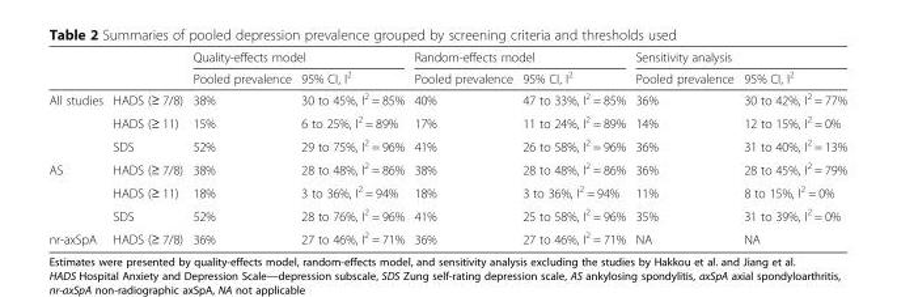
<table><thead><tr><td rowspan="2"></td><td rowspan="2"></td><td colspan="2">Quality-effects model</td><td colspan="2">Random-effects model</td><td colspan="2">Sensitivity analysis</td></tr><tr><td>Pooled prevalence</td><td>95% CI, I<sup>2</sup></td><td>Pooled prevalence</td><td>95% CI, I<sup>2</sup></td><td>Pooled prevalence</td><td>95% CI, I<sup>2</sup></td></tr></thead><tbody><tr><td rowspan="3">All studies</td><td>HADS (≥ 7/8)</td><td>38%</td><td>30 to 45%, I<sup>2</sup> = 85%</td><td>40%</td><td>47 to 33%, I<sup>2</sup> = 85%</td><td>36%</td><td>30 to 42%, I<sup>2</sup> = 77%</td></tr><tr><td>HADS (≥ 11)</td><td>15%</td><td>6 to 25%, I<sup>2</sup> = 89%</td><td>17%</td><td>11 to 24%, I<sup>2</sup> = 89%</td><td>14%</td><td>12 to 15%, I<sup>2</sup> = 0%</td></tr><tr><td>SDS</td><td>52%</td><td>29 to 75%, I<sup>2</sup> = 96%</td><td>41%</td><td>26 to 58%, I<sup>2</sup> = 96%</td><td>36%</td><td>31 to 40%, I<sup>2</sup> = 13%</td></tr><tr><td rowspan="3">AS</td><td>HADS (≥ 7/8)</td><td>38%</td><td>28 to 48%, I<sup>2</sup> = 86%</td><td>38%</td><td>28 to 48%, I<sup>2</sup> = 86%</td><td>36%</td><td>28 to 45%, I<sup>2</sup> = 79%</td></tr><tr><td>HADS (≥ 11)</td><td>18%</td><td>3 to 36%, I<sup>2</sup> = 94%</td><td>18%</td><td>3 to 36%, I<sup>2</sup> = 94%</td><td>11%</td><td>8 to 15%, I<sup>2</sup> = 0%</td></tr><tr><td>SDS</td><td>52%</td><td>28 to 76%, I<sup>2</sup> = 96%</td><td>41%</td><td>25 to 58%, I<sup>2</sup> = 96%</td><td>35%</td><td>31 to 39%, I<sup>2</sup> = 0%</td></tr><tr><td>nr-axSpA</td><td>HADS (≥ 7/8)</td><td>36%</td><td>27 to 46%, I<sup>2</sup> = 71%</td><td>36%</td><td>27 to 46%, I<sup>2</sup> = 71%</td><td>NA</td><td>NA</td></tr></tbody></table>